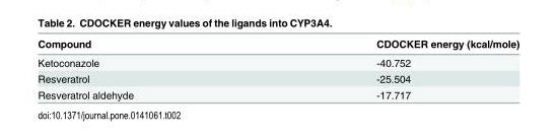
<table><thead><tr><td>Compound</td><td>CDOCKER energy (kcal/mole)</td></tr></thead><tbody><tr><td>Ketoconazole</td><td>-40.752</td></tr><tr><td>Resveratrol</td><td>-25.504</td></tr><tr><td>Resveratrol aldehyde</td><td>-17.717</td></tr></tbody></table>